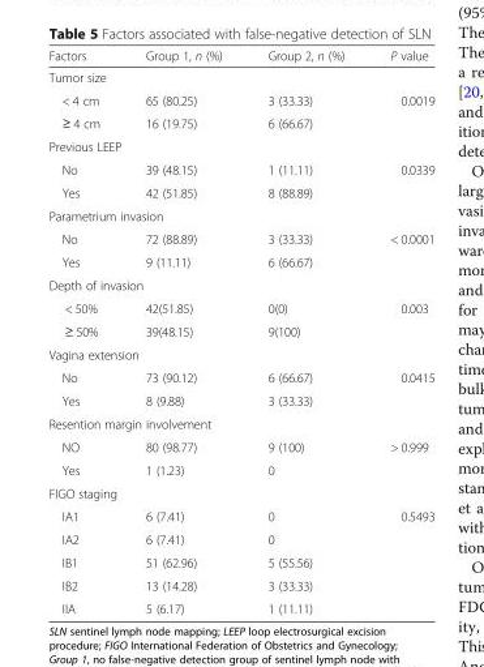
<table><thead><tr><td>Factors</td><td>Group 1, n (%)</td><td>Group 2, n (%)</td><td>P value</td></tr></thead><tbody><tr><td colspan="4">Tumor size</td></tr><tr><td>&lt; 4 cm</td><td>65 (80.25)</td><td>3 (33.33)</td><td>0.0019</td></tr><tr><td>≥ 4 cm</td><td>16 (19.75)</td><td>6 (66.67)</td><td></td></tr><tr><td colspan="4">Previous LEEP</td></tr><tr><td>No</td><td>39 (48.15)</td><td>1 (11.11)</td><td>0.0339</td></tr><tr><td>Yes</td><td>42 (51.85)</td><td>8 (88.89)</td><td></td></tr><tr><td colspan="4">Parametrium invasion</td></tr><tr><td>No</td><td>72 (88.89)</td><td>3 (33.33)</td><td>&lt; 0.0001</td></tr><tr><td>Yes</td><td>9 (11.11)</td><td>6 (66.67)</td><td></td></tr><tr><td colspan="4">Depth of invasion</td></tr><tr><td>&lt; 50%</td><td>42(51.85)</td><td>0(0)</td><td>0.003</td></tr><tr><td>≥ 50%</td><td>39(48.15)</td><td>9(100)</td><td></td></tr><tr><td colspan="4">Vagina extension</td></tr><tr><td>No</td><td>73 (90.12)</td><td>6 (66.67)</td><td>0.0415</td></tr><tr><td>Yes</td><td>8 (9.88)</td><td>3 (33.33)</td><td></td></tr><tr><td colspan="4">Resention margin involvement</td></tr><tr><td>NO</td><td>80 (98.77)</td><td>9 (100)</td><td>&gt; 0.999</td></tr><tr><td>Yes</td><td>1 (1.23)</td><td>0</td><td></td></tr><tr><td colspan="4">FIGO staging</td></tr><tr><td>IA1</td><td>6 (7.41)</td><td>0</td><td>0.5493</td></tr><tr><td>IA2</td><td>6 (7.41)</td><td>0</td><td rowspan="4"></td></tr><tr><td>IB1</td><td>51 (62.96)</td><td>5 (55.56)</td></tr><tr><td>IB2</td><td>13 (14.28)</td><td>3 (33.33)</td></tr><tr><td>IIA</td><td>5 (6.17)</td><td>1 (11.11)</td></tr></tbody></table>